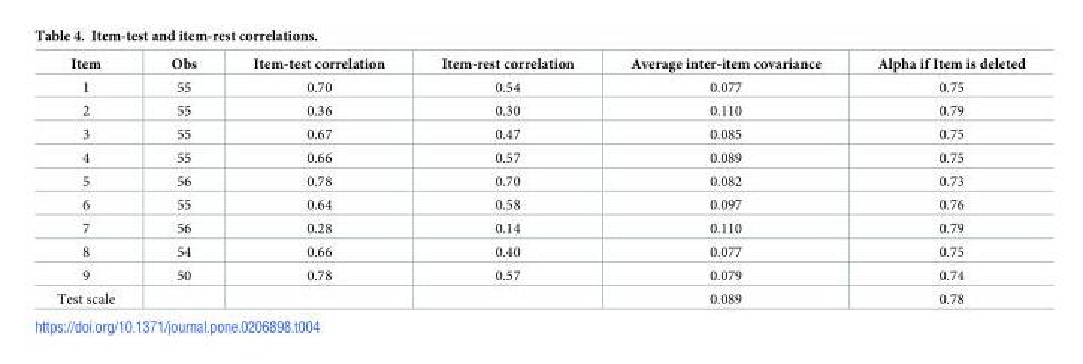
<table><thead><tr><td>Item</td><td>Obs</td><td>Item-test correlation</td><td>Item-rest correlation</td><td>Average inter-item covariance</td><td>Alpha if Item is deleted</td></tr></thead><tbody><tr><td>1</td><td>55</td><td>0.70</td><td>0.54</td><td>0.077</td><td>0.75</td></tr><tr><td>2</td><td>55</td><td>0.36</td><td>0.30</td><td>0.110</td><td>0.79</td></tr><tr><td>3</td><td>55</td><td>0.67</td><td>0.47</td><td>0.085</td><td>0.75</td></tr><tr><td>4</td><td>55</td><td>0.66</td><td>0.57</td><td>0.089</td><td>0.75</td></tr><tr><td>5</td><td>56</td><td>0.78</td><td>0.70</td><td>0.082</td><td>0.73</td></tr><tr><td>6</td><td>55</td><td>0.64</td><td>0.58</td><td>0.097</td><td>0.76</td></tr><tr><td>7</td><td>56</td><td>0.28</td><td>0.14</td><td>0.110</td><td>0.79</td></tr><tr><td>8</td><td>54</td><td>0.66</td><td>0.40</td><td>0.077</td><td>0.75</td></tr><tr><td>9</td><td>50</td><td>0.78</td><td>0.57</td><td>0.079</td><td>0.74</td></tr><tr><td>Test scale</td><td></td><td></td><td></td><td>0.089</td><td>0.78</td></tr></tbody></table>